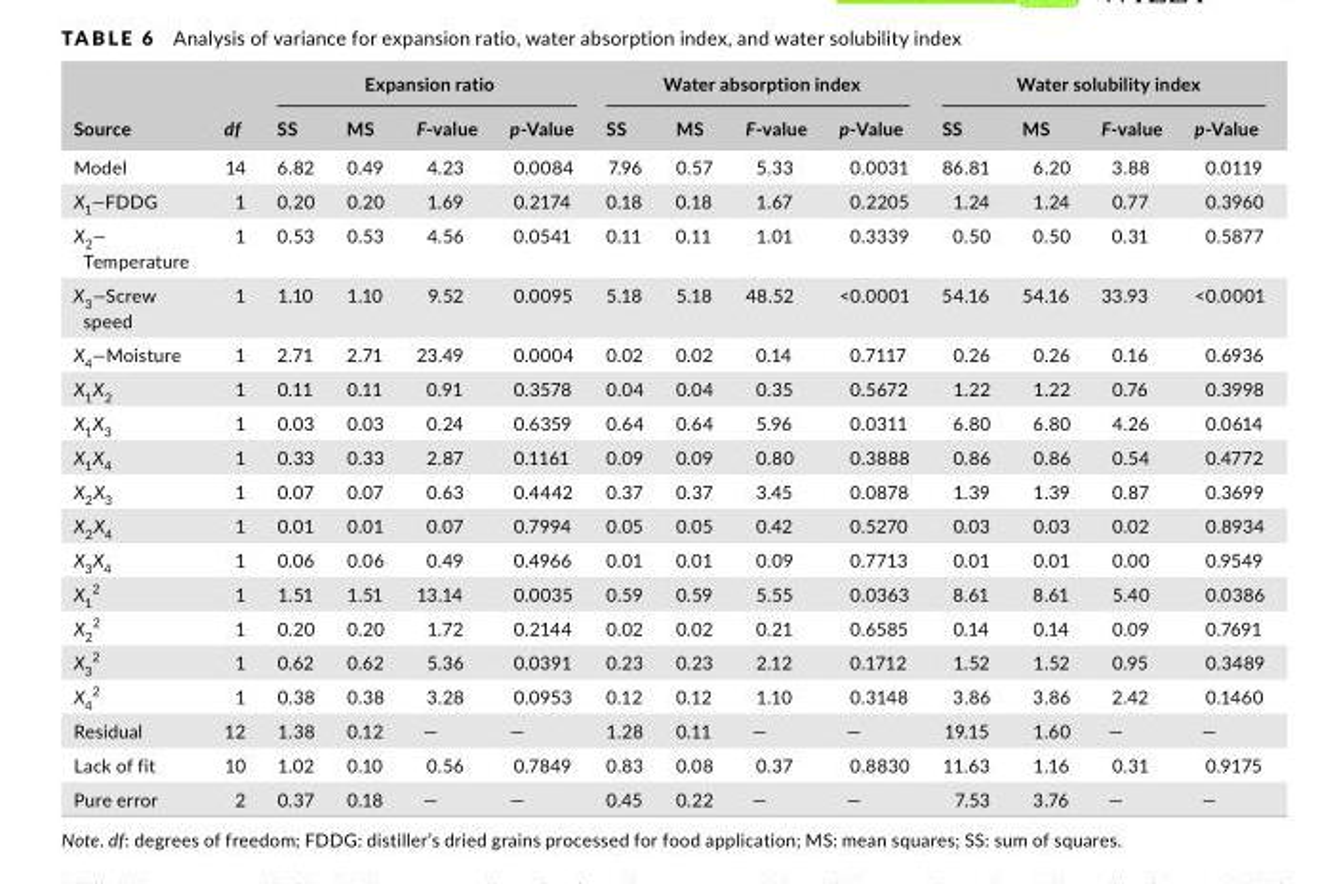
<table><thead><tr><td rowspan="2">Source</td><td rowspan="2">df</td><td colspan="4">Expansion ratio</td><td colspan="4">Water absorption index</td><td colspan="4">Water solubility index</td></tr><tr><td>SS</td><td>MS</td><td>F- value</td><td>p- Value</td><td>SS</td><td>MS</td><td>F- value</td><td>p- Value</td><td>SS</td><td>MS</td><td>F- value</td><td>p- Value</td></tr></thead><tbody><tr><td>Model</td><td>14</td><td>6.82</td><td>0.49</td><td>4.23</td><td>0.0084</td><td>7.96</td><td>0.57</td><td>5.33</td><td>0.0031</td><td>86.81</td><td>6.20</td><td>3.88</td><td>0.0119</td></tr><tr><td>X<sub>1</sub>—FDDG</td><td>1</td><td>0.20</td><td>0.20</td><td>1.69</td><td>0.2174</td><td>0.18</td><td>0.18</td><td>1.67</td><td>0.2205</td><td>1.24</td><td>1.24</td><td>0.77</td><td>0.3960</td></tr><tr><td>X<sub>2</sub>— Temperature</td><td>1</td><td>0.53</td><td>0.53</td><td>4.56</td><td>0.0541</td><td>0.11</td><td>0.11</td><td>1.01</td><td>0.3339</td><td>0.50</td><td>0.50</td><td>0.31</td><td>0.5877</td></tr><tr><td>X<sub>3</sub>—Screw speed</td><td>1</td><td>1.10</td><td>1.10</td><td>9.52</td><td>0.0095</td><td>5.18</td><td>5.18</td><td>48.52</td><td>&lt;0.0001</td><td>54.16</td><td>54.16</td><td>33.93</td><td>&lt;0.0001</td></tr><tr><td>X<sub>4</sub>—Moisture</td><td>1</td><td>2.71</td><td>2.71</td><td>23.49</td><td>0.0004</td><td>0.02</td><td>0.02</td><td>0.14</td><td>0.7117</td><td>0.26</td><td>0.26</td><td>0.16</td><td>0.6936</td></tr><tr><td>X<sub>1</sub>X<sub>2</sub></td><td>1</td><td>0.11</td><td>0.11</td><td>0.91</td><td>0.3578</td><td>0.04</td><td>0.04</td><td>0.35</td><td>0.5672</td><td>1.22</td><td>1.22</td><td>0.76</td><td>0.3998</td></tr><tr><td>X<sub>1</sub>X<sub>3</sub></td><td>1</td><td>0.03</td><td>0.03</td><td>0.24</td><td>0.6359</td><td>0.64</td><td>0.64</td><td>5.96</td><td>0.0311</td><td>6.80</td><td>6.80</td><td>4.26</td><td>0.0614</td></tr><tr><td>X<sub>1</sub>X<sub>4</sub></td><td>1</td><td>0.33</td><td>0.33</td><td>2.87</td><td>0.1161</td><td>0.09</td><td>0.09</td><td>0.80</td><td>0.3888</td><td>0.86</td><td>0.86</td><td>0.54</td><td>0.4772</td></tr><tr><td>X<sub>2</sub>X<sub>3</sub></td><td>1</td><td>0.07</td><td>0.07</td><td>0.63</td><td>0.4442</td><td>0.37</td><td>0.37</td><td>3.45</td><td>0.0878</td><td>1.39</td><td>1.39</td><td>0.87</td><td>0.3699</td></tr><tr><td>X<sub>2</sub>X<sub>4</sub></td><td>1</td><td>0.01</td><td>0.01</td><td>0.07</td><td>0.7994</td><td>0.05</td><td>0.05</td><td>0.42</td><td>0.5270</td><td>0.03</td><td>0.03</td><td>0.02</td><td>0.8934</td></tr><tr><td>X<sub>3</sub>X<sub>4</sub></td><td>1</td><td>0.06</td><td>0.06</td><td>0.49</td><td>0.4966</td><td>0.01</td><td>0.01</td><td>0.09</td><td>0.7713</td><td>0.01</td><td>0.01</td><td>0.00</td><td>0.9549</td></tr><tr><td>X<sub>1</sub> <sup>2</sup></td><td>1</td><td>1.51</td><td>1.51</td><td>13.14</td><td>0.0035</td><td>0.59</td><td>0.59</td><td>5.55</td><td>0.0363</td><td>8.61</td><td>8.61</td><td>5.40</td><td>0.0386</td></tr><tr><td>X<sub>2</sub> <sup>2</sup></td><td>1</td><td>0.20</td><td>0.20</td><td>1.72</td><td>0.2144</td><td>0.02</td><td>0.02</td><td>0.21</td><td>0.6585</td><td>0.14</td><td>0.14</td><td>0.09</td><td>0.7691</td></tr><tr><td>X<sub>3</sub> <sup>2</sup></td><td>1</td><td>0.62</td><td>0.62</td><td>5.36</td><td>0.0391</td><td>0.23</td><td>0.23</td><td>2.12</td><td>0.1712</td><td>1.52</td><td>1.52</td><td>0.95</td><td>0.3489</td></tr><tr><td>X<sub>4</sub> <sup>2</sup></td><td>1</td><td>0.38</td><td>0.38</td><td>3.28</td><td>0.0953</td><td>0.12</td><td>0.12</td><td>1.10</td><td>0.3148</td><td>3.86</td><td>3.86</td><td>2.42</td><td>0.1460</td></tr><tr><td>Residual</td><td>12</td><td>1.38</td><td>0.12</td><td>—</td><td>—</td><td>1.28</td><td>0.11</td><td>—</td><td>—</td><td>19.15</td><td>1.60</td><td>—</td><td>—</td></tr><tr><td>Lack of fit</td><td>10</td><td>1.02</td><td>0.10</td><td>0.56</td><td>0.7849</td><td>0.83</td><td>0.08</td><td>0.37</td><td>0.8830</td><td>11.63</td><td>1.16</td><td>0.31</td><td>0.9175</td></tr><tr><td>Pure error</td><td>2</td><td>0.37</td><td>0.18</td><td>—</td><td>—</td><td>0.45</td><td>0.22</td><td>—</td><td>—</td><td>7.53</td><td>3.76</td><td>—</td><td>—</td></tr></tbody></table>